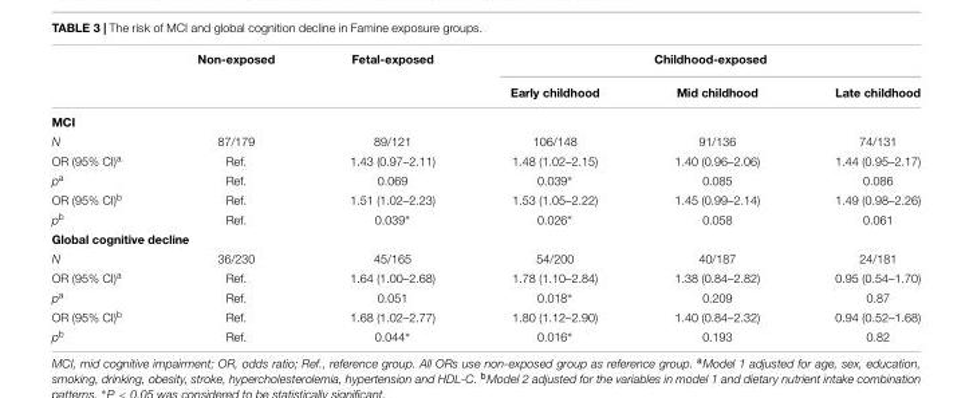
<table><thead><tr><td rowspan="2"></td><td rowspan="2">Non-exposed</td><td rowspan="2">Fetal-exposed</td><td colspan="3">Childhood-exposed</td></tr><tr><td>Early childhood</td><td>Mid childhood</td><td>Late childhood</td></tr></thead><tbody><tr><td colspan="6">MCI</td></tr><tr><td>N</td><td>87/179</td><td>89/121</td><td>106/148</td><td>91/136</td><td>74/131</td></tr><tr><td>OR (95% CI)<sup>a</sup></td><td>Ref.</td><td>1.43 (0.97–2.11)</td><td>1.48 (1.02–2.15)</td><td>1.40 (0.96–2.06)</td><td>1.44 (0.95–2.17)</td></tr><tr><td>p<sup>a</sup></td><td>Ref.</td><td>0.069</td><td>0.039∗</td><td>0.085</td><td>0.086</td></tr><tr><td>OR (95% CI)<sup>b</sup></td><td>Ref.</td><td>1.51 (1.02–2.23)</td><td>1.53 (1.05–2.22)</td><td>1.45 (0.99–2.14)</td><td>1.49 (0.98–2.26)</td></tr><tr><td>p<sup>b</sup></td><td>Ref.</td><td>0.039∗</td><td>0.026∗</td><td>0.058</td><td>0.061</td></tr><tr><td colspan="6">Global cognitive decline</td></tr><tr><td>N</td><td>36/230</td><td>45/165</td><td>54/200</td><td>40/187</td><td>24/181</td></tr><tr><td>OR (95% CI)<sup>a</sup></td><td>Ref.</td><td>1.64 (1.00–2.68)</td><td>1.78 (1.10–2.84)</td><td>1.38 (0.84–2.82)</td><td>0.95 (0.54–1.70)</td></tr><tr><td>p<sup>a</sup></td><td>Ref.</td><td>0.051</td><td>0.018∗</td><td>0.209</td><td>0.87</td></tr><tr><td>OR (95% CI)<sup>b</sup></td><td>Ref.</td><td>1.68 (1.02–2.77)</td><td>1.80 (1.12–2.90)</td><td>1.40 (0.84–2.32)</td><td>0.94 (0.52–1.68)</td></tr><tr><td>p<sup>b</sup></td><td>Ref.</td><td>0.044∗</td><td>0.016∗</td><td>0.193</td><td>0.82</td></tr></tbody></table>